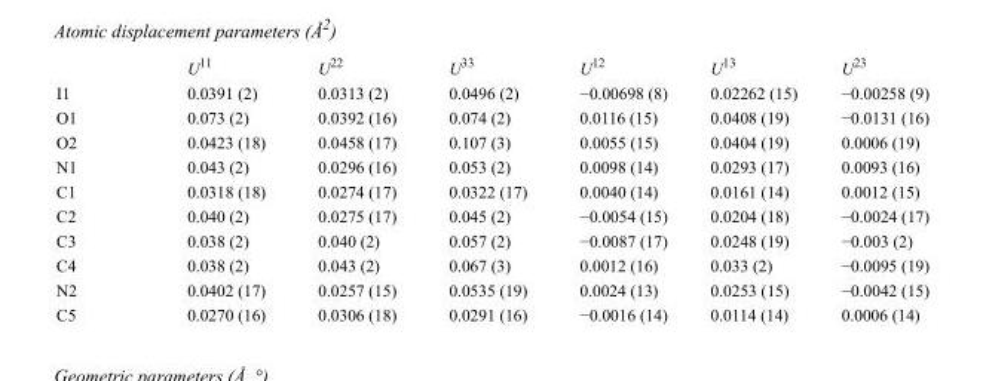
<table><thead><tr><td></td><td>U<sup>11</sup></td><td>U<sup>22</sup></td><td>U<sup>33</sup></td><td>U<sup>12</sup></td><td>U<sup>13</sup></td><td>U<sup>23</sup></td></tr></thead><tbody><tr><td>I1</td><td>0.0391 (2)</td><td>0.0313 (2)</td><td>0.0496 (2)</td><td>−0.00698 (8)</td><td>0.02262 (15)</td><td>−0.00258 (9)</td></tr><tr><td>O1</td><td>0.073 (2)</td><td>0.0392 (16)</td><td>0.074 (2)</td><td>0.0116 (15)</td><td>0.0408 (19)</td><td>−0.0131 (16)</td></tr><tr><td>O2</td><td>0.0423 (18)</td><td>0.0458 (17)</td><td>0.107 (3)</td><td>0.0055 (15)</td><td>0.0404 (19)</td><td>0.0006 (19)</td></tr><tr><td>N1</td><td>0.043 (2)</td><td>0.0296 (16)</td><td>0.053 (2)</td><td>0.0098 (14)</td><td>0.0293 (17)</td><td>0.0093 (16)</td></tr><tr><td>C1</td><td>0.0318 (18)</td><td>0.0274 (17)</td><td>0.0322 (17)</td><td>0.0040 (14)</td><td>0.0161 (14)</td><td>0.0012 (15)</td></tr><tr><td>C2</td><td>0.040 (2)</td><td>0.0275 (17)</td><td>0.045 (2)</td><td>−0.0054 (15)</td><td>0.0204 (18)</td><td>−0.0024 (17)</td></tr><tr><td>C3</td><td>0.038 (2)</td><td>0.040 (2)</td><td>0.057 (2)</td><td>−0.0087 (17)</td><td>0.0248 (19)</td><td>−0.003 (2)</td></tr><tr><td>C4</td><td>0.038 (2)</td><td>0.043 (2)</td><td>0.067 (3)</td><td>0.0012 (16)</td><td>0.033 (2)</td><td>−0.0095 (19)</td></tr><tr><td>N2</td><td>0.0402 (17)</td><td>0.0257 (15)</td><td>0.0535 (19)</td><td>0.0024 (13)</td><td>0.0253 (15)</td><td>−0.0042 (15)</td></tr><tr><td>C5</td><td>0.0270 (16)</td><td>0.0306 (18)</td><td>0.0291 (16)</td><td>−0.0016 (14)</td><td>0.0114 (14)</td><td>0.0006 (14)</td></tr></tbody></table>